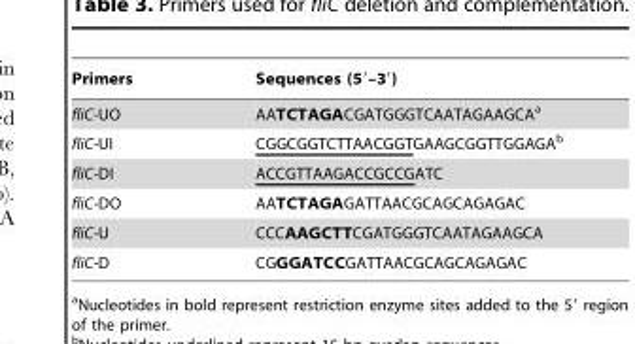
<table><thead><tr><td>Primers</td><td>Sequences (5′–3′)</td></tr></thead><tbody><tr><td>fliC-UO</td><td>AATCTAGACGATGGGTCAATAGAAGCA<sup>a</sup></td></tr><tr><td>fliC-UI</td><td>CGGCGGTCTTAACGGTGAAGCGGTTGGAGA<sup>b</sup></td></tr><tr><td>fliC-DI</td><td>ACCGTTAAGACCGCCGATC</td></tr><tr><td>fliC-DO</td><td>AATCTAGAGATTAACGCAGCAGAGAC</td></tr><tr><td>fliC-U</td><td>CCCAAGCTTCGATGGGTCAATAGAAGCA</td></tr><tr><td>fliC-D</td><td>CGGGATCCGATTAACGCAGCAGAGAC</td></tr></tbody></table>